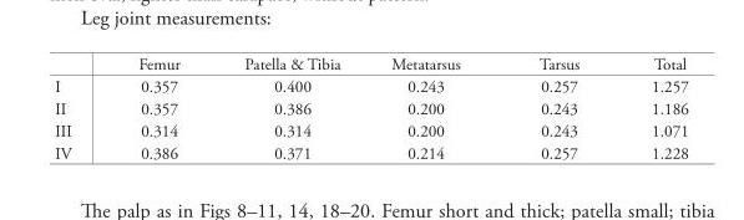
<table><thead><tr><td></td><td>Femur</td><td>Patella &amp; Tibia</td><td>Metatarsus</td><td>Tarsus</td><td>Total</td></tr></thead><tbody><tr><td>I</td><td>0.357</td><td>0.400</td><td>0.243</td><td>0.257</td><td>1.257</td></tr><tr><td>II</td><td>0.357</td><td>0.386</td><td>0.200</td><td>0.243</td><td>1.186</td></tr><tr><td>III</td><td>0.314</td><td>0.314</td><td>0.200</td><td>0.243</td><td>1.071</td></tr><tr><td>IV</td><td>0.386</td><td>0.371</td><td>0.214</td><td>0.257</td><td>1.228</td></tr></tbody></table>